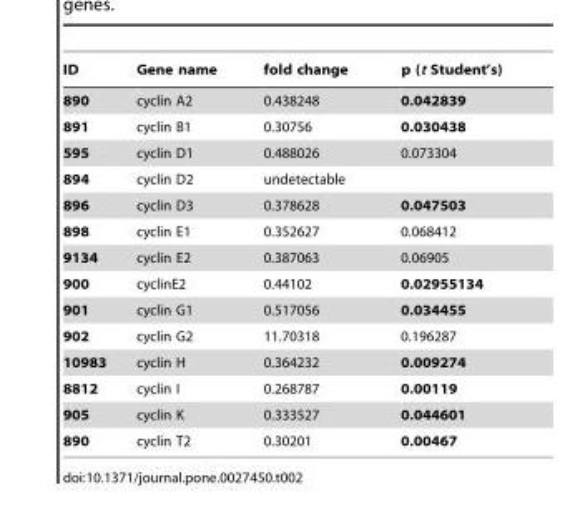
<table><thead><tr><td>ID</td><td>Gene name</td><td>fold change</td><td>p (t Student’s)</td></tr></thead><tbody><tr><td>890</td><td>cyclin A2</td><td>0.438248</td><td>0.042839</td></tr><tr><td>891</td><td>cyclin B1</td><td>0.30756</td><td>0.030438</td></tr><tr><td>595</td><td>cyclin D1</td><td>0.488026</td><td>0.073304</td></tr><tr><td>894</td><td>cyclin D2</td><td>undetectable</td><td></td></tr><tr><td>896</td><td>cyclin D3</td><td>0.378628</td><td>0.047503</td></tr><tr><td>898</td><td>cyclin E1</td><td>0.352627</td><td>0.068412</td></tr><tr><td>9134</td><td>cyclin E2</td><td>0.387063</td><td>0.06905</td></tr><tr><td>900</td><td>cyclinE2</td><td>0.44102</td><td>0.02955134</td></tr><tr><td>901</td><td>cyclin G1</td><td>0.517056</td><td>0.034455</td></tr><tr><td>902</td><td>cyclin G2</td><td>11.70318</td><td>0.196287</td></tr><tr><td>10983</td><td>cyclin H</td><td>0.364232</td><td>0.009274</td></tr><tr><td>8812</td><td>cyclin I</td><td>0.268787</td><td>0.00119</td></tr><tr><td>905</td><td>cyclin K</td><td>0.333527</td><td>0.044601</td></tr><tr><td>890</td><td>cyclin T2</td><td>0.30201</td><td>0.00467</td></tr></tbody></table>